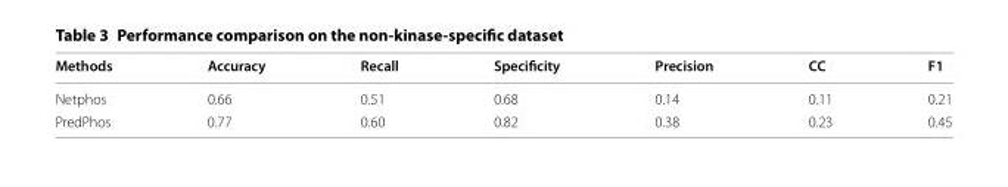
<table><thead><tr><td>Methods</td><td>Accuracy</td><td>Recall</td><td>Specificity</td><td>Precision</td><td>CC</td><td>F1</td></tr></thead><tbody><tr><td>Netphos</td><td>0.66</td><td>0.51</td><td>0.68</td><td>0.14</td><td>0.11</td><td>0.21</td></tr><tr><td>PredPhos</td><td>0.77</td><td>0.60</td><td>0.82</td><td>0.38</td><td>0.23</td><td>0.45</td></tr></tbody></table>